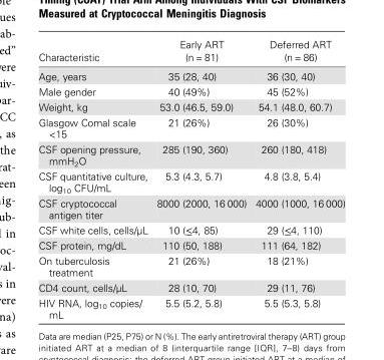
<table><thead><tr><td>Characteristic</td><td>Early ART (n = 81)</td><td>Deferred ART (n = 86)</td></tr></thead><tbody><tr><td>Age, years</td><td>35 (28, 40)</td><td>36 (30, 40)</td></tr><tr><td>Male gender</td><td>40 (49%)</td><td>45 (52%)</td></tr><tr><td>Weight, kg</td><td>53.0 (46.5, 59.0)</td><td>54.1 (48.0, 60.7)</td></tr><tr><td>Glasgow Comal scale &lt;15</td><td>21 (26%)</td><td>26 (30%)</td></tr><tr><td>CSF opening pressure, mmH<sub>2</sub>O</td><td>285 (190, 360)</td><td>260 (180, 418)</td></tr><tr><td>CSF quantitative culture, log<sub>10</sub> CFU/mL</td><td>5.3 (4.3, 5.7)</td><td>4.8 (3.8, 5.4)</td></tr><tr><td>CSF cryptococcal antigen titer</td><td>8000 (2000, 16 000)</td><td>4000 (1000, 16 000)</td></tr><tr><td>CSF white cells, cells/µL</td><td>10 (≤4, 85)</td><td>29 (≤4, 110)</td></tr><tr><td>CSF protein, mg/dL</td><td>110 (50, 188)</td><td>111 (64, 182)</td></tr><tr><td>On tuberculosis treatment</td><td>21 (26%)</td><td>18 (21%)</td></tr><tr><td>CD4 count, cells/µL</td><td>28 (10, 70)</td><td>29 (11, 76)</td></tr><tr><td>HIV RNA, log<sub>10</sub> copies/ mL</td><td>5.5 (5.2, 5.8)</td><td>5.5 (5.3, 5.8)</td></tr></tbody></table>